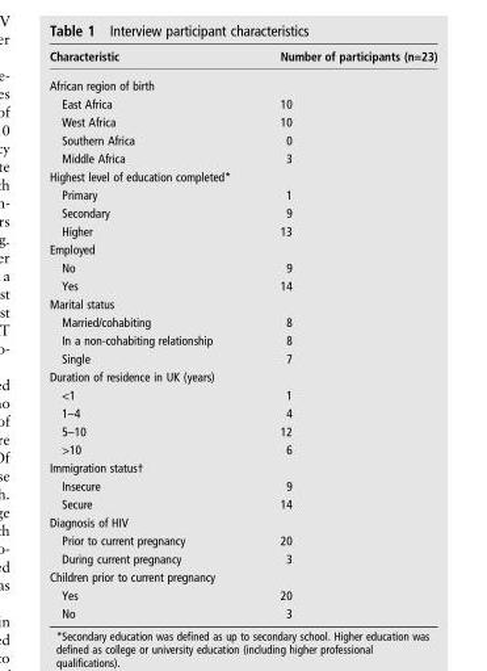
<table><thead><tr><td>Characteristic</td><td>Number of participants (n=23)</td></tr></thead><tbody><tr><td colspan="2">African region of birth</td></tr><tr><td>East Africa</td><td>10</td></tr><tr><td>West Africa</td><td>10</td></tr><tr><td>Southern Africa</td><td>0</td></tr><tr><td>Middle Africa</td><td>3</td></tr><tr><td colspan="2">Highest level of education completed*</td></tr><tr><td>Primary</td><td>1</td></tr><tr><td>Secondary</td><td>9</td></tr><tr><td>Higher</td><td>13</td></tr><tr><td colspan="2">Employed</td></tr><tr><td>No</td><td>9</td></tr><tr><td>Yes</td><td>14</td></tr><tr><td colspan="2">Marital status</td></tr><tr><td>Married/cohabiting</td><td>8</td></tr><tr><td>In a non-cohabiting relationship</td><td>8</td></tr><tr><td>Single</td><td>7</td></tr><tr><td colspan="2">Duration of residence in UK (years)</td></tr><tr><td>&lt;1</td><td>1</td></tr><tr><td>1–4</td><td>4</td></tr><tr><td>5–10</td><td>12</td></tr><tr><td>&gt;10</td><td>6</td></tr><tr><td colspan="2">Immigration status†</td></tr><tr><td>Insecure</td><td>9</td></tr><tr><td>Secure</td><td>14</td></tr><tr><td colspan="2">Diagnosis of HIV</td></tr><tr><td>Prior to current pregnancy</td><td>20</td></tr><tr><td>During current pregnancy</td><td>3</td></tr><tr><td colspan="2">Children prior to current pregnancy</td></tr><tr><td>Yes</td><td>20</td></tr><tr><td>No</td><td>3</td></tr></tbody></table>